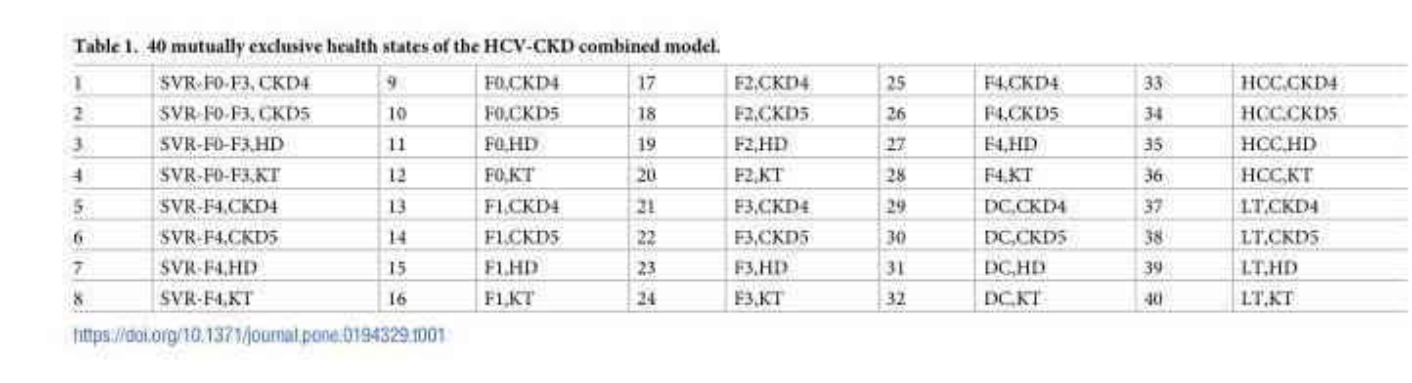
<table><tbody><tr><td>1</td><td>SVR-F0-F3, CKD4</td><td>9</td><td>F0,CKD4</td><td>17</td><td>F2,CKD4</td><td>25</td><td>F4,CKD4</td><td>33</td><td>HCC,CKD4</td></tr><tr><td>2</td><td>SVR-F0-F3, CKD5</td><td>10</td><td>F0,CKD5</td><td>18</td><td>F2,CKD5</td><td>26</td><td>F4,CKD5</td><td>34</td><td>HCC,CKD5</td></tr><tr><td>3</td><td>SVR-F0-F3,HD</td><td>11</td><td>F0,HD</td><td>19</td><td>F2,HD</td><td>27</td><td>F4,HD</td><td>35</td><td>HCC,HD</td></tr><tr><td>4</td><td>SVR-F0-F3,KT</td><td>12</td><td>F0,KT</td><td>20</td><td>F2,KT</td><td>28</td><td>F4,KT</td><td>36</td><td>HCC,KT</td></tr><tr><td>5</td><td>SVR-F4,CKD4</td><td>13</td><td>F1,CKD4</td><td>21</td><td>F3,CKD4</td><td>29</td><td>DC,CKD4</td><td>37</td><td>LT,CKD4</td></tr><tr><td>6</td><td>SVR-F4,CKD5</td><td>14</td><td>F1,CKD5</td><td>22</td><td>F3,CKD5</td><td>30</td><td>DC,CKD5</td><td>38</td><td>LT,CKD5</td></tr><tr><td>7</td><td>SVR-F4,HD</td><td>15</td><td>F1,HD</td><td>23</td><td>F3,HD</td><td>31</td><td>DC,HD</td><td>39</td><td>LT,HD</td></tr><tr><td>8</td><td>SVR-F4,KT</td><td>16</td><td>F1,KT</td><td>24</td><td>F3,KT</td><td>32</td><td>DC,KT</td><td>40</td><td>LT,KT</td></tr></tbody></table>